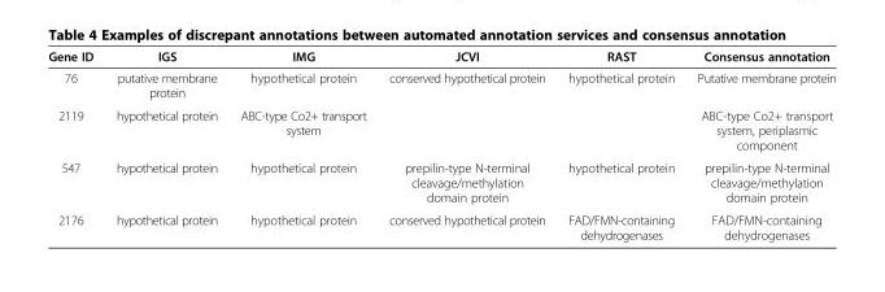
<table><thead><tr><td>Gene ID</td><td>IGS</td><td>IMG</td><td>JCVI</td><td>RAST</td><td>Consensus annotation</td></tr></thead><tbody><tr><td>76</td><td>putative membrane protein</td><td>hypothetical protein</td><td>conserved hypothetical protein</td><td>hypothetical protein</td><td>Putative membrane protein</td></tr><tr><td>2119</td><td>hypothetical protein</td><td>ABC-type Co2+ transport system</td><td></td><td></td><td>ABC-type Co2+ transport system, periplasmic component</td></tr><tr><td>547</td><td>hypothetical protein</td><td>hypothetical protein</td><td>prepilin-type N-terminal cleavage/methylation domain protein</td><td>hypothetical protein</td><td>prepilin-type N-terminal cleavage/methylation domain protein</td></tr><tr><td>2176</td><td>hypothetical protein</td><td>hypothetical protein</td><td>conserved hypothetical protein</td><td>FAD/FMN-containing dehydrogenases</td><td>FAD/FMN-containing dehydrogenases</td></tr></tbody></table>